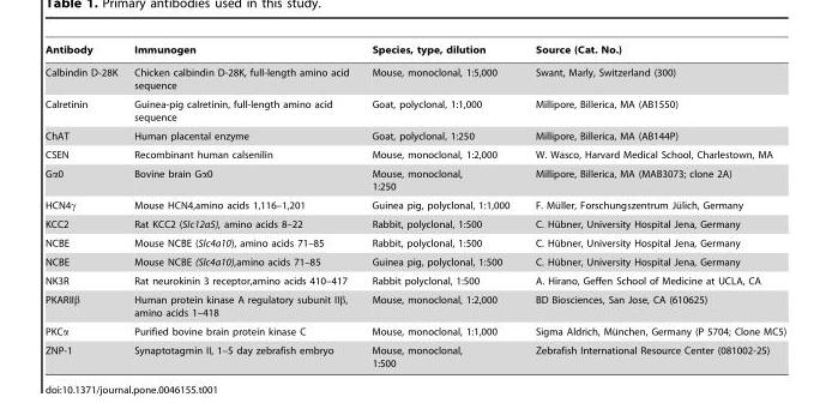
<table><thead><tr><td>Antibody</td><td>Immunogen</td><td>Species, type, dilution</td><td>Source (Cat. No.)</td></tr></thead><tbody><tr><td>Calbindin D-28K</td><td>Chicken calbindin D-28K, full-length amino acid sequence</td><td>Mouse, monoclonal, 1:5,000</td><td>Swant, Marly, Switzerland (300)</td></tr><tr><td>Calretinin</td><td>Guinea-pig calretinin, full-length amino acid sequence</td><td>Goat, polyclonal, 1:1,000</td><td>Millipore, Billerica, MA (AB1550)</td></tr><tr><td>ChAT</td><td>Human placental enzyme</td><td>Goat, polyclonal, 1:250</td><td>Millipore, Billerica, MA (AB144P)</td></tr><tr><td>CSEN</td><td>Recombinant human calsenilin</td><td>Mouse, monoclonal, 1:2,000</td><td>W. Wasco, Harvard Medical School, Charlestown, MA</td></tr><tr><td>Gα0</td><td>Bovine brain Gα0</td><td>Mouse, monoclonal, 1:250</td><td>Millipore, Billerica, MA (MAB3073; clone 2A)</td></tr><tr><td>HCN4γ</td><td>Mouse HCN4,amino acids 1,116–1,201</td><td>Guinea pig, polyclonal, 1:1,000</td><td>F. Mu¨ller, Forschungszentrum Ju¨lich, Germany</td></tr><tr><td>KCC2</td><td>Rat KCC2 (Slc12a5), amino acids 8–22</td><td>Rabbit, polyclonal, 1:500</td><td>C. Hu¨bner, University Hospital Jena, Germany</td></tr><tr><td>NCBE</td><td>Mouse NCBE (Slc4a10), amino acids 71–85</td><td>Rabbit, polyclonal, 1:500</td><td>C. Hu¨bner, University Hospital Jena, Germany</td></tr><tr><td>NCBE</td><td>Mouse NCBE (Slc4a10),amino acids 71–85</td><td>Guinea pig, polyclonal, 1:500</td><td>C. Hu¨bner, University Hospital Jena, Germany</td></tr><tr><td>NK3R</td><td>Rat neurokinin 3 receptor,amino acids 410–417</td><td>Rabbit polyclonal, 1:500</td><td>A. Hirano, Geffen School of Medicine at UCLA, CA</td></tr><tr><td>PKARIIβ</td><td>Human protein kinase A regulatory subunit IIβ, amino acids 1–418</td><td>Mouse, monoclonal, 1:2,000</td><td>BD Biosciences, San Jose, CA (610625)</td></tr><tr><td>PKCα</td><td>Purified bovine brain protein kinase C</td><td>Mouse, monoclonal, 1:1,000</td><td>Sigma Aldrich, Mu¨nchen, Germany (P 5704; Clone MC5)</td></tr><tr><td>ZNP-1</td><td>Synaptotagmin II, 1–5 day zebrafish embryo</td><td>Mouse, monoclonal, 1:500</td><td>Zebrafish International Resource Center (081002-25)</td></tr></tbody></table>